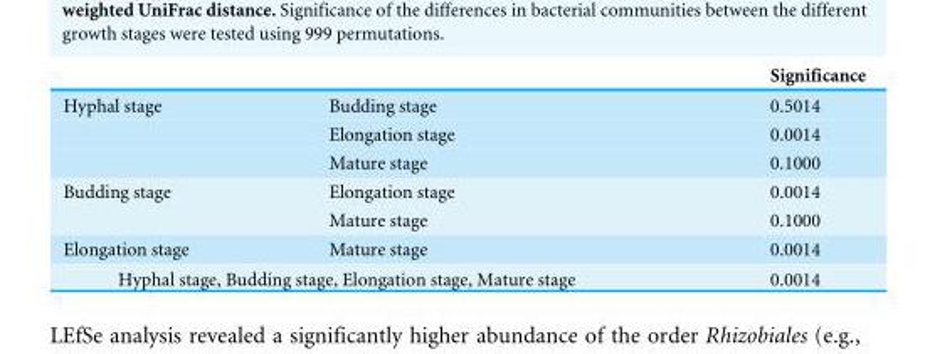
<table><thead><tr><td></td><td></td><td>Significance</td></tr></thead><tbody><tr><td rowspan="3">Hyphal stage</td><td>Budding stage</td><td>0.5014</td></tr><tr><td>Elongation stage</td><td>0.0014</td></tr><tr><td>Mature stage</td><td>0.1000</td></tr><tr><td rowspan="2">Budding stage</td><td>Elongation stage</td><td>0.0014</td></tr><tr><td>Mature stage</td><td>0.1000</td></tr><tr><td>Elongation stage</td><td>Mature stage</td><td>0.0014</td></tr><tr><td colspan="2">Hyphal stage, Budding stage, Elongation stage, Mature stage</td><td>0.0014</td></tr></tbody></table>